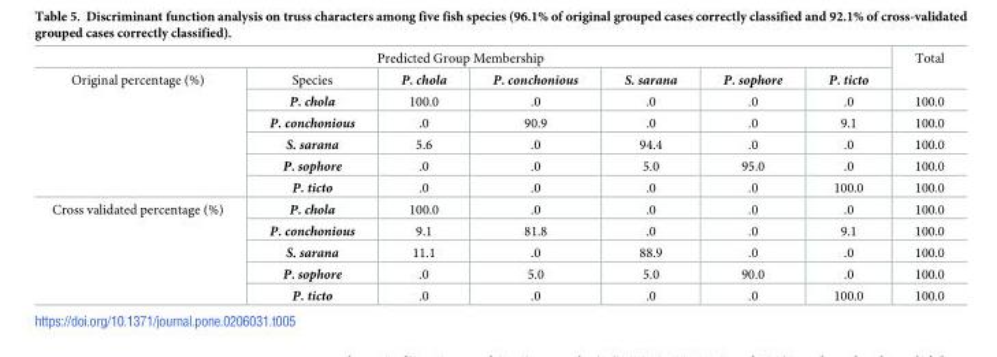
<table><tbody><tr><td colspan="7">Predicted Group Membership</td><td rowspan="2">Total</td></tr><tr><td rowspan="6">Original percentage (%)</td><td>Species</td><td>P. chola</td><td>P. conchonious</td><td>S. sarana</td><td>P. sophore</td><td>P. ticto</td></tr><tr><td>P. chola</td><td>100.0</td><td>.0</td><td>.0</td><td>.0</td><td>.0</td><td>100.0</td></tr><tr><td>P. conchonious</td><td>.0</td><td>90.9</td><td>.0</td><td>.0</td><td>9.1</td><td>100.0</td></tr><tr><td>S. sarana</td><td>5.6</td><td>.0</td><td>94.4</td><td>.0</td><td>.0</td><td>100.0</td></tr><tr><td>P. sophore</td><td>.0</td><td>.0</td><td>5.0</td><td>95.0</td><td>.0</td><td>100.0</td></tr><tr><td>P. ticto</td><td>.0</td><td>.0</td><td>.0</td><td>.0</td><td>100.0</td><td>100.0</td></tr><tr><td rowspan="5">Cross validated percentage (%)</td><td>P. chola</td><td>100.0</td><td>.0</td><td>.0</td><td>.0</td><td>.0</td><td>100.0</td></tr><tr><td>P. conchonious</td><td>9.1</td><td>81.8</td><td>.0</td><td>.0</td><td>9.1</td><td>100.0</td></tr><tr><td>S. sarana</td><td>11.1</td><td>.0</td><td>88.9</td><td>.0</td><td>.0</td><td>100.0</td></tr><tr><td>P. sophore</td><td>.0</td><td>5.0</td><td>5.0</td><td>90.0</td><td>.0</td><td>100.0</td></tr><tr><td>P. ticto</td><td>.0</td><td>.0</td><td>.0</td><td>.0</td><td>100.0</td><td>100.0</td></tr></tbody></table>